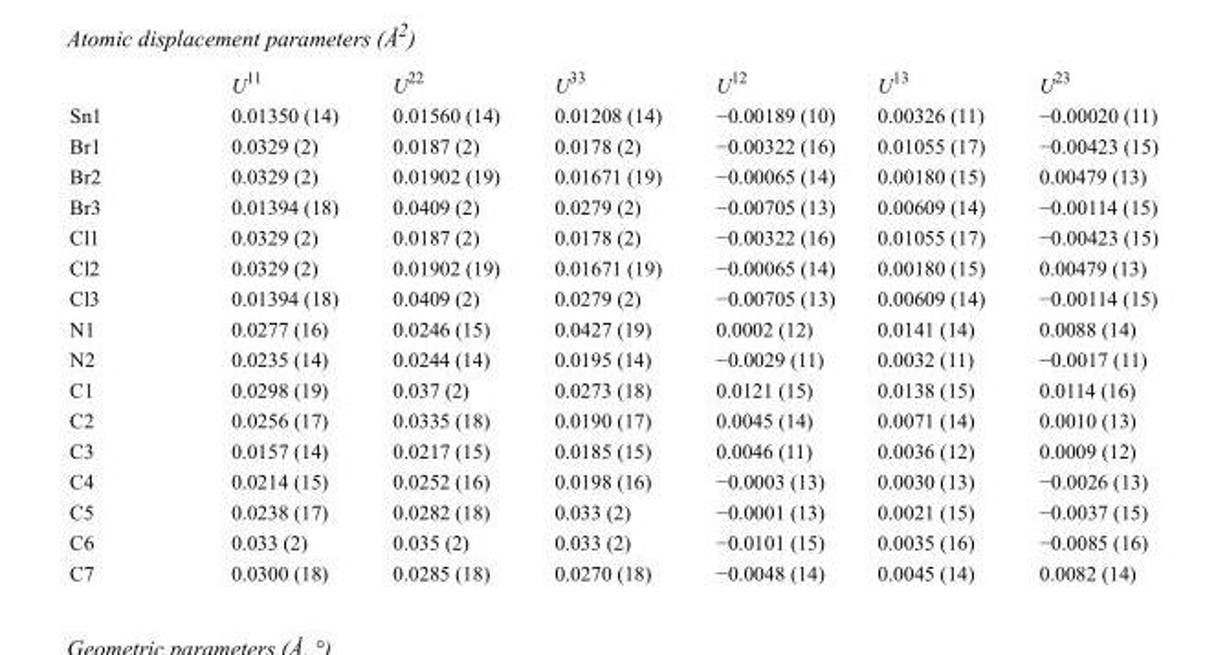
<table><thead><tr><td></td><td>U<sup>11</sup></td><td>U<sup>22</sup></td><td>U<sup>33</sup></td><td>U<sup>12</sup></td><td>U<sup>13</sup></td><td>U<sup>23</sup></td></tr></thead><tbody><tr><td>Sn1</td><td>0.01350 (14)</td><td>0.01560 (14)</td><td>0.01208 (14)</td><td>−0.00189 (10)</td><td>0.00326 (11)</td><td>−0.00020 (11)</td></tr><tr><td>Br1</td><td>0.0329 (2)</td><td>0.0187 (2)</td><td>0.0178 (2)</td><td>−0.00322 (16)</td><td>0.01055 (17)</td><td>−0.00423 (15)</td></tr><tr><td>Br2</td><td>0.0329 (2)</td><td>0.01902 (19)</td><td>0.01671 (19)</td><td>−0.00065 (14)</td><td>0.00180 (15)</td><td>0.00479 (13)</td></tr><tr><td>Br3</td><td>0.01394 (18)</td><td>0.0409 (2)</td><td>0.0279 (2)</td><td>−0.00705 (13)</td><td>0.00609 (14)</td><td>−0.00114 (15)</td></tr><tr><td>Cl1</td><td>0.0329 (2)</td><td>0.0187 (2)</td><td>0.0178 (2)</td><td>−0.00322 (16)</td><td>0.01055 (17)</td><td>−0.00423 (15)</td></tr><tr><td>Cl2</td><td>0.0329 (2)</td><td>0.01902 (19)</td><td>0.01671 (19)</td><td>−0.00065 (14)</td><td>0.00180 (15)</td><td>0.00479 (13)</td></tr><tr><td>Cl3</td><td>0.01394 (18)</td><td>0.0409 (2)</td><td>0.0279 (2)</td><td>−0.00705 (13)</td><td>0.00609 (14)</td><td>−0.00114 (15)</td></tr><tr><td>N1</td><td>0.0277 (16)</td><td>0.0246 (15)</td><td>0.0427 (19)</td><td>0.0002 (12)</td><td>0.0141 (14)</td><td>0.0088 (14)</td></tr><tr><td>N2</td><td>0.0235 (14)</td><td>0.0244 (14)</td><td>0.0195 (14)</td><td>−0.0029 (11)</td><td>0.0032 (11)</td><td>−0.0017 (11)</td></tr><tr><td>C1</td><td>0.0298 (19)</td><td>0.037 (2)</td><td>0.0273 (18)</td><td>0.0121 (15)</td><td>0.0138 (15)</td><td>0.0114 (16)</td></tr><tr><td>C2</td><td>0.0256 (17)</td><td>0.0335 (18)</td><td>0.0190 (17)</td><td>0.0045 (14)</td><td>0.0071 (14)</td><td>0.0010 (13)</td></tr><tr><td>C3</td><td>0.0157 (14)</td><td>0.0217 (15)</td><td>0.0185 (15)</td><td>0.0046 (11)</td><td>0.0036 (12)</td><td>0.0009 (12)</td></tr><tr><td>C4</td><td>0.0214 (15)</td><td>0.0252 (16)</td><td>0.0198 (16)</td><td>−0.0003 (13)</td><td>0.0030 (13)</td><td>−0.0026 (13)</td></tr><tr><td>C5</td><td>0.0238 (17)</td><td>0.0282 (18)</td><td>0.033 (2)</td><td>−0.0001 (13)</td><td>0.0021 (15)</td><td>−0.0037 (15)</td></tr><tr><td>C6</td><td>0.033 (2)</td><td>0.035 (2)</td><td>0.033 (2)</td><td>−0.0101 (15)</td><td>0.0035 (16)</td><td>−0.0085 (16)</td></tr><tr><td>C7</td><td>0.0300 (18)</td><td>0.0285 (18)</td><td>0.0270 (18)</td><td>−0.0048 (14)</td><td>0.0045 (14)</td><td>0.0082 (14)</td></tr></tbody></table>